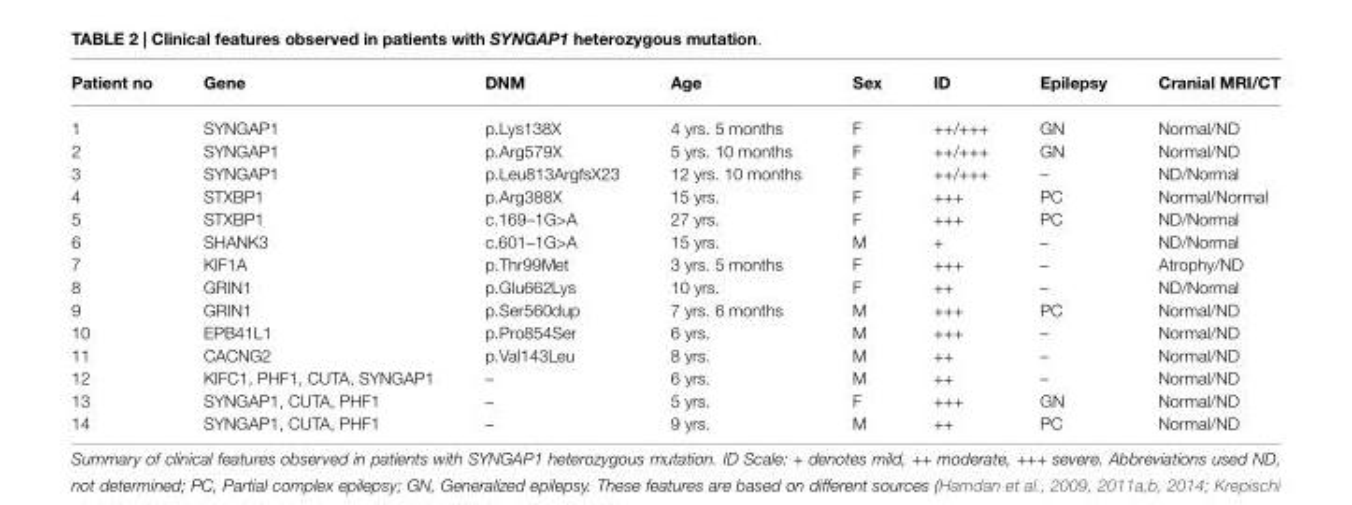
<table><thead><tr><td>Patient no</td><td>Gene</td><td>DNM</td><td>Age</td><td>Sex</td><td>ID</td><td>Epilepsy</td><td>Cranial MRI/CT</td></tr></thead><tbody><tr><td>1</td><td>SYNGAP1</td><td>p.Lys138X</td><td>4 yrs. 5 months</td><td>F</td><td>++/+++</td><td>GN</td><td>Normal/ND</td></tr><tr><td>2</td><td>SYNGAP1</td><td>p.Arg579X</td><td>5 yrs. 10 months</td><td>F</td><td>++/+++</td><td>GN</td><td>Normal/ND</td></tr><tr><td>3</td><td>SYNGAP1</td><td>p.Leu813ArgfsX23</td><td>12 yrs. 10 months</td><td>F</td><td>++/+++</td><td>–</td><td>ND/Normal</td></tr><tr><td>4</td><td>STXBP1</td><td>p.Arg388X</td><td>15 yrs.</td><td>F</td><td>+++</td><td>PC</td><td>Normal/Normal</td></tr><tr><td>5</td><td>STXBP1</td><td>c.169–1G&gt;A</td><td>27 yrs.</td><td>F</td><td>+++</td><td>PC</td><td>ND/Normal</td></tr><tr><td>6</td><td>SHANK3</td><td>c.601–1G&gt;A</td><td>15 yrs.</td><td>M</td><td>+</td><td>–</td><td>ND/Normal</td></tr><tr><td>7</td><td>KIF1A</td><td>p.Thr99Met</td><td>3 yrs. 5 months</td><td>F</td><td>+++</td><td>–</td><td>Atrophy/ND</td></tr><tr><td>8</td><td>GRIN1</td><td>p.Glu662Lys</td><td>10 yrs.</td><td>F</td><td>++</td><td>–</td><td>ND/Normal</td></tr><tr><td>9</td><td>GRIN1</td><td>p.Ser560dup</td><td>7 yrs. 6 months</td><td>M</td><td>+++</td><td>PC</td><td>Normal/ND</td></tr><tr><td>10</td><td>EPB41L1</td><td>p.Pro854Ser</td><td>6 yrs.</td><td>M</td><td>+++</td><td>–</td><td>Normal/ND</td></tr><tr><td>11</td><td>CACNG2</td><td>p.Val143Leu</td><td>8 yrs.</td><td>M</td><td>++</td><td>–</td><td>Normal/ND</td></tr><tr><td>12</td><td>KIFC1, PHF1, CUTA, SYNGAP1</td><td>–</td><td>6 yrs.</td><td>M</td><td>++</td><td>–</td><td>Normal/ND</td></tr><tr><td>13</td><td>SYNGAP1, CUTA, PHF1</td><td>–</td><td>5 yrs.</td><td>F</td><td>+++</td><td>GN</td><td>Normal/ND</td></tr><tr><td>14</td><td>SYNGAP1, CUTA, PHF1</td><td>–</td><td>9 yrs.</td><td>M</td><td>++</td><td>PC</td><td>Normal/ND</td></tr></tbody></table>